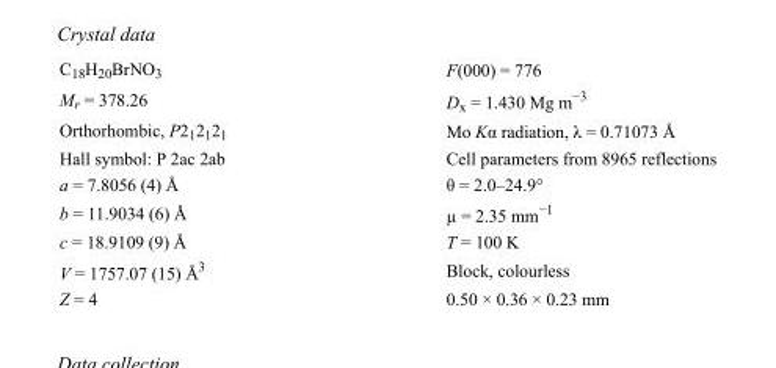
<table><tbody><tr><td>C<sub>18</sub>H<sub>20</sub>BrNO<sub>3</sub></td><td>F(000) = 776</td></tr><tr><td>M<sub>r</sub> = 378.26</td><td>D<sub>x</sub> = 1.430 Mg m<sup>−3</sup></td></tr><tr><td>Orthorhombic, P2<sub>1</sub>2<sub>1</sub>2<sub>1</sub></td><td>Mo Kα radiation, λ = 0.71073 Å</td></tr><tr><td>Hall symbol: P 2ac 2ab</td><td>Cell parameters from 8965 reflections</td></tr><tr><td>a = 7.8056 (4) Å</td><td>θ = 2.0–24.9°</td></tr><tr><td>b = 11.9034 (6) Å</td><td>µ = 2.35 mm<sup>−1</sup></td></tr><tr><td>c = 18.9109 (9) Å</td><td>T = 100 K</td></tr><tr><td>V = 1757.07 (15) Å<sup>3</sup></td><td>Block, colourless</td></tr><tr><td>Z = 4</td><td>0.50 × 0.36 × 0.23 mm</td></tr></tbody></table>